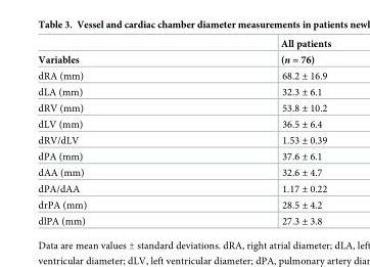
<table><thead><tr><td rowspan="2">Variables</td><td rowspan="2">All patients (n = 76)</td></tr><tr></tr></thead><tbody><tr><td>dRA (mm)</td><td>68.2 ± 16.9</td></tr><tr><td>dLA (mm)</td><td>32.3 ± 6.1</td></tr><tr><td>dRV (mm)</td><td>53.8 ± 10.2</td></tr><tr><td>dLV (mm)</td><td>36.5 ± 6.4</td></tr><tr><td>dRV/dLV</td><td>1.53 ± 0.39</td></tr><tr><td>dPA (mm)</td><td>37.6 ± 6.1</td></tr><tr><td>dAA (mm)</td><td>32.6 ± 4.7</td></tr><tr><td>dPA/dAA</td><td>1.17 ± 0.22</td></tr><tr><td>drPA (mm)</td><td>28.5 ± 4.2</td></tr><tr><td>dlPA (mm)</td><td>27.3 ± 3.8</td></tr></tbody></table>